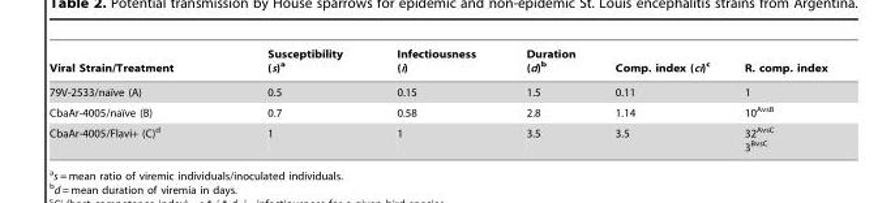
<table><thead><tr><td>Viral Strain/Treatment</td><td>Susceptibility (s)<sup>a</sup></td><td>Infectiousness (i)</td><td>Duration (d)<sup>b</sup></td><td>Comp. index (ci)<sup>c</sup></td><td>R. comp. index</td></tr></thead><tbody><tr><td>79V-2533/naı¨ve (A)</td><td>0.5</td><td>0.15</td><td>1.5</td><td>0.11</td><td>1</td></tr><tr><td>CbaAr-4005/naı¨ve (B)</td><td>0.7</td><td>0.58</td><td>2.8</td><td>1.14</td><td>10<sup>AvsB</sup></td></tr><tr><td>CbaAr-4005/Flavi+ (C)<sup>d</sup></td><td>1</td><td>1</td><td>3.5</td><td>3.5</td><td>32<sup>AvsC</sup> 3<sup>BvsC</sup></td></tr></tbody></table>